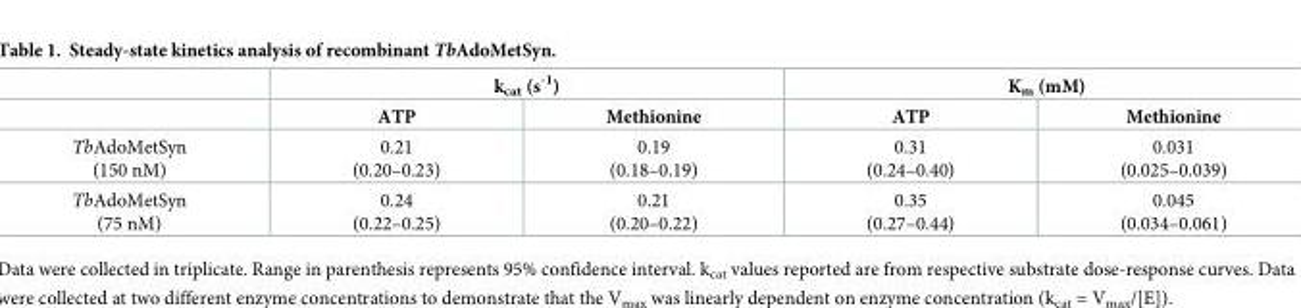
<table><thead><tr><td rowspan="2"></td><td colspan="2">k<sub>cat</sub> (s<sup>-1</sup>)</td><td colspan="2">K<sub>m</sub> (mM)</td></tr><tr><td>ATP</td><td>Methionine</td><td>ATP</td><td>Methionine</td></tr></thead><tbody><tr><td>TbAdoMetSyn (150 nM)</td><td>0.21 (0.20–0.23)</td><td>0.19 (0.18–0.19)</td><td>0.31 (0.24–0.40)</td><td>0.031 (0.025–0.039)</td></tr><tr><td>TbAdoMetSyn (75 nM)</td><td>0.24 (0.22–0.25)</td><td>0.21 (0.20–0.22)</td><td>0.35 (0.27–0.44)</td><td>0.045 (0.034–0.061)</td></tr></tbody></table>